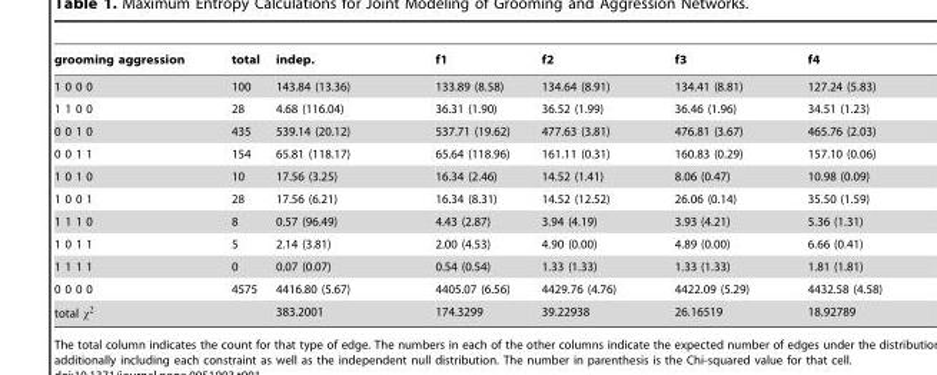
<table><thead><tr><td>grooming aggression</td><td>total</td><td>indep.</td><td>f1</td><td>f2</td><td>f3</td><td>f4</td></tr></thead><tbody><tr><td>1 0 0 0</td><td>100</td><td>143.84 (13.36)</td><td>133.89 (8.58)</td><td>134.64 (8.91)</td><td>134.41 (8.81)</td><td>127.24 (5.83)</td></tr><tr><td>1 1 0 0</td><td>28</td><td>4.68 (116.04)</td><td>36.31 (1.90)</td><td>36.52 (1.99)</td><td>36.46 (1.96)</td><td>34.51 (1.23)</td></tr><tr><td>0 0 1 0</td><td>435</td><td>539.14 (20.12)</td><td>537.71 (19.62)</td><td>477.63 (3.81)</td><td>476.81 (3.67)</td><td>465.76 (2.03)</td></tr><tr><td>0 0 1 1</td><td>154</td><td>65.81 (118.17)</td><td>65.64 (118.96)</td><td>161.11 (0.31)</td><td>160.83 (0.29)</td><td>157.10 (0.06)</td></tr><tr><td>1 0 1 0</td><td>10</td><td>17.56 (3.25)</td><td>16.34 (2.46)</td><td>14.52 (1.41)</td><td>8.06 (0.47)</td><td>10.98 (0.09)</td></tr><tr><td>1 0 0 1</td><td>28</td><td>17.56 (6.21)</td><td>16.34 (8.31)</td><td>14.52 (12.52)</td><td>26.06 (0.14)</td><td>35.50 (1.59)</td></tr><tr><td>1 1 1 0</td><td>8</td><td>0.57 (96.49)</td><td>4.43 (2.87)</td><td>3.94 (4.19)</td><td>3.93 (4.21)</td><td>5.36 (1.31)</td></tr><tr><td>1 0 1 1</td><td>5</td><td>2.14 (3.81)</td><td>2.00 (4.53)</td><td>4.90 (0.00)</td><td>4.89 (0.00)</td><td>6.66 (0.41)</td></tr><tr><td>1 1 1 1</td><td>0</td><td>0.07 (0.07)</td><td>0.54 (0.54)</td><td>1.33 (1.33)</td><td>1.33 (1.33)</td><td>1.81 (1.81)</td></tr><tr><td>0 0 0 0</td><td>4575</td><td>4416.80 (5.67)</td><td>4405.07 (6.56)</td><td>4429.76 (4.76)</td><td>4422.09 (5.29)</td><td>4432.58 (4.58)</td></tr><tr><td>total x2</td><td></td><td>383.2001</td><td>174.3299</td><td>39.22938</td><td>26.16519</td><td>18.92789</td></tr></tbody></table>